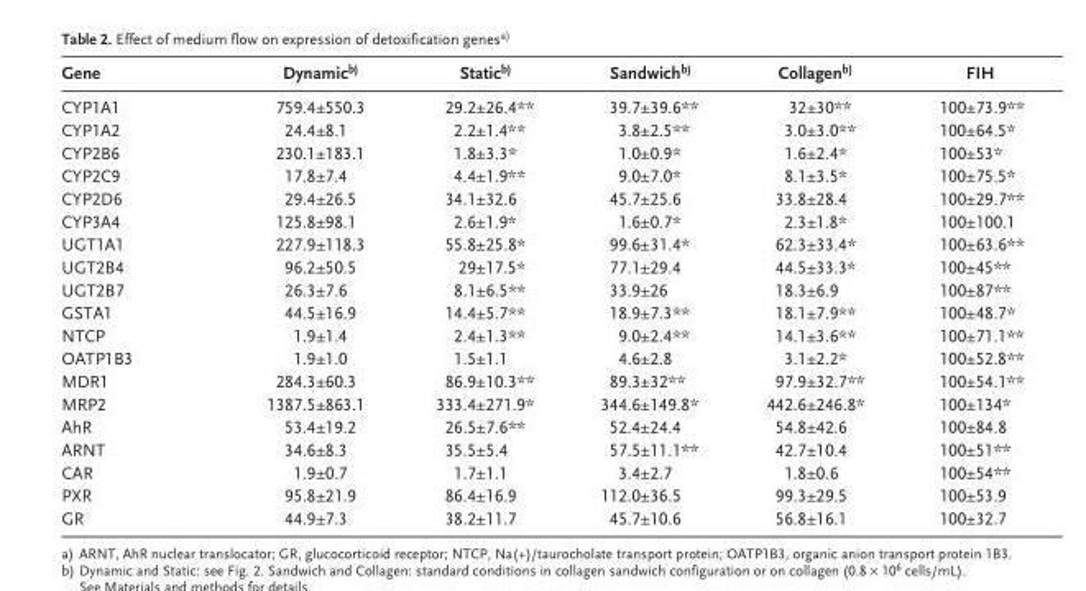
<table><thead><tr><td>Gene</td><td>Dynamicb)</td><td>Staticb)</td><td>Sandwichb)</td><td>Collagenb)</td><td>FIH</td></tr></thead><tbody><tr><td>CYP1A1</td><td>759.4±550.3</td><td>29.2±26.4**</td><td>39.7±39.6**</td><td>32±30**</td><td>100±73.9**</td></tr><tr><td>CYP1A2</td><td>24.4±8.1</td><td>2.2±1.4**</td><td>3.8±2.5**</td><td>3.0±3.0**</td><td>100±64.5*</td></tr><tr><td>CYP2B6</td><td>230.1±183.1</td><td>1.8±3.3*</td><td>1.0±0.9*</td><td>1.6±2.4*</td><td>100±53*</td></tr><tr><td>CYP2C9</td><td>17.8±7.4</td><td>4.4±1.9**</td><td>9.0±7.0*</td><td>8.1±3.5*</td><td>100±75.5*</td></tr><tr><td>CYP2D6</td><td>29.4±26.5</td><td>34.1±32.6</td><td>45.7±25.6</td><td>33.8±28.4</td><td>100±29.7**</td></tr><tr><td>CYP3A4</td><td>125.8±98.1</td><td>2.6±1.9*</td><td>1.6±0.7*</td><td>2.3±1.8*</td><td>100±100.1</td></tr><tr><td>UGT1A1</td><td>227.9±118.3</td><td>55.8±25.8*</td><td>99.6±31.4*</td><td>62.3±33.4*</td><td>100±63.6**</td></tr><tr><td>UGT2B4</td><td>96.2±50.5</td><td>29±17.5*</td><td>77.1±29.4</td><td>44.5±33.3*</td><td>100±45**</td></tr><tr><td>UGT2B7</td><td>26.3±7.6</td><td>8.1±6.5**</td><td>33.9±26</td><td>18.3±6.9</td><td>100±87**</td></tr><tr><td>GSTA1</td><td>44.5±16.9</td><td>14.4±5.7**</td><td>18.9±7.3**</td><td>18.1±7.9**</td><td>100±48.7*</td></tr><tr><td>NTCP</td><td>1.9±1.4</td><td>2.4±1.3**</td><td>9.0±2.4**</td><td>14.1±3.6**</td><td>100±71.1**</td></tr><tr><td>OATP1B3</td><td>1.9±1.0</td><td>1.5±1.1</td><td>4.6±2.8</td><td>3.1±2.2*</td><td>100±52.8**</td></tr><tr><td>MDR1</td><td>284.3±60.3</td><td>86.9±10.3**</td><td>89.3±32**</td><td>97.9±32.7**</td><td>100±54.1**</td></tr><tr><td>MRP2</td><td>1387.5±863.1</td><td>333.4±271.9*</td><td>344.6±149.8*</td><td>442.6±246.8*</td><td>100±134*</td></tr><tr><td>AhR</td><td>53.4±19.2</td><td>26.5±7.6**</td><td>52.4±24.4</td><td>54.8±42.6</td><td>100±84.8</td></tr><tr><td>ARNT</td><td>34.6±8.3</td><td>35.5±5.4</td><td>57.5±11.1**</td><td>42.7±10.4</td><td>100±51**</td></tr><tr><td>CAR</td><td>1.9±0.7</td><td>1.7±1.1</td><td>3.4±2.7</td><td>1.8±0.6</td><td>100±54**</td></tr><tr><td>PXR</td><td>95.8±21.9</td><td>86.4±16.9</td><td>112.0±36.5</td><td>99.3±29.5</td><td>100±53.9</td></tr><tr><td>GR</td><td>44.9±7.3</td><td>38.2±11.7</td><td>45.7±10.6</td><td>56.8±16.1</td><td>100±32.7</td></tr></tbody></table>